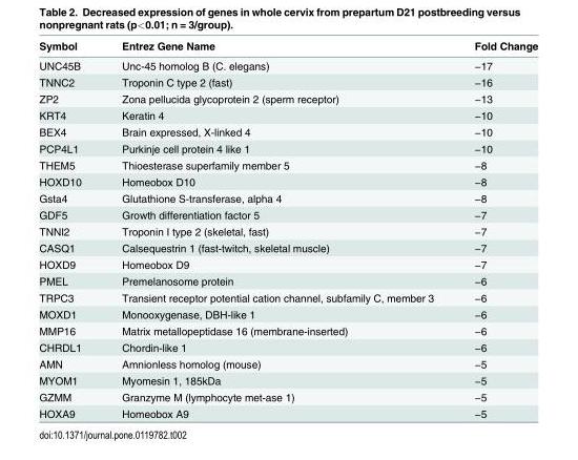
<table><thead><tr><td>Symbol</td><td>Entrez Gene Name</td><td>Fold Change</td></tr></thead><tbody><tr><td>UNC45B</td><td>Unc-45 homolog B (C. elegans)</td><td>−17</td></tr><tr><td>TNNC2</td><td>Troponin C type 2 (fast)</td><td>−16</td></tr><tr><td>ZP2</td><td>Zona pellucida glycoprotein 2 (sperm receptor)</td><td>−13</td></tr><tr><td>KRT4</td><td>Keratin 4</td><td>−10</td></tr><tr><td>BEX4</td><td>Brain expressed, X-linked 4</td><td>−10</td></tr><tr><td>PCP4L1</td><td>Purkinje cell protein 4 like 1</td><td>−10</td></tr><tr><td>THEM5</td><td>Thioesterase superfamily member 5</td><td>−8</td></tr><tr><td>HOXD10</td><td>Homeobox D10</td><td>−8</td></tr><tr><td>Gsta4</td><td>Glutathione S-transferase, alpha 4</td><td>−8</td></tr><tr><td>GDF5</td><td>Growth differentiation factor 5</td><td>−7</td></tr><tr><td>TNNI2</td><td>Troponin I type 2 (skeletal, fast)</td><td>−7</td></tr><tr><td>CASQ1</td><td>Calsequestrin 1 (fast-twitch, skeletal muscle)</td><td>−7</td></tr><tr><td>HOXD9</td><td>Homeobox D9</td><td>−7</td></tr><tr><td>PMEL</td><td>Premelanosome protein</td><td>−6</td></tr><tr><td>TRPC3</td><td>Transient receptor potential cation channel, subfamily C, member 3</td><td>−6</td></tr><tr><td>MOXD1</td><td>Monooxygenase, DBH-like 1</td><td>−6</td></tr><tr><td>MMP16</td><td>Matrix metallopeptidase 16 (membrane-inserted)</td><td>−6</td></tr><tr><td>CHRDL1</td><td>Chordin-like 1</td><td>−6</td></tr><tr><td>AMN</td><td>Amnionless homolog (mouse)</td><td>−5</td></tr><tr><td>MYOM1</td><td>Myomesin 1, 185kDa</td><td>−5</td></tr><tr><td>GZMM</td><td>Granzyme M (lymphocyte met-ase 1)</td><td>−5</td></tr><tr><td>HOXA9</td><td>Homeobox A9</td><td>−5</td></tr></tbody></table>